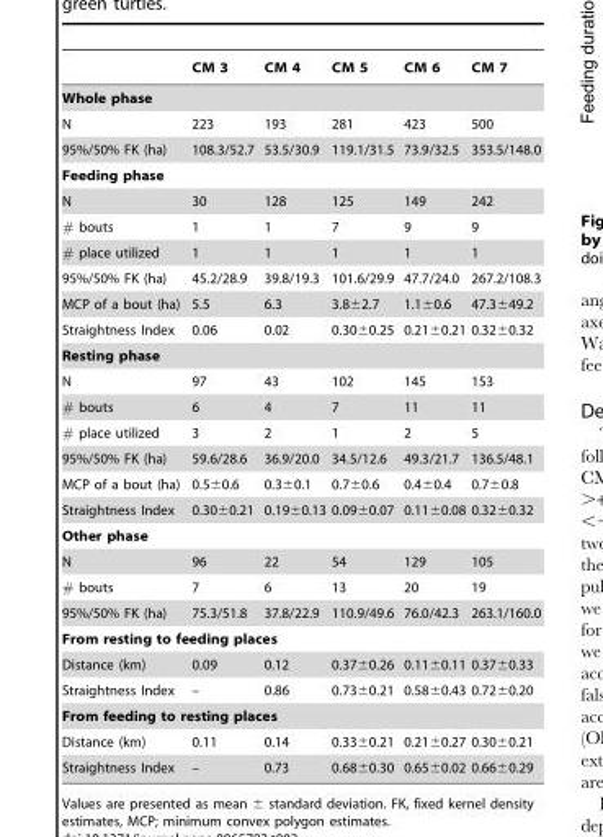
<table><thead><tr><td></td><td>CM 3</td><td>CM 4</td><td>CM 5</td><td>CM 6</td><td>CM 7</td></tr></thead><tbody><tr><td colspan="6">Whole phase</td></tr><tr><td>N</td><td>223</td><td>193</td><td>281</td><td>423</td><td>500</td></tr><tr><td>95%/50% FK (ha)</td><td>108.3/52.7</td><td>53.5/30.9</td><td>119.1/31.5</td><td>73.9/32.5</td><td>353.5/148.0</td></tr><tr><td colspan="6">Feeding phase</td></tr><tr><td>N</td><td>30</td><td>128</td><td>125</td><td>149</td><td>242</td></tr><tr><td># bouts</td><td>1</td><td>1</td><td>7</td><td>9</td><td>9</td></tr><tr><td># place utilized</td><td>1</td><td>1</td><td>1</td><td>1</td><td>1</td></tr><tr><td>95%/50% FK (ha)</td><td>45.2/28.9</td><td>39.8/19.3</td><td>101.6/29.9</td><td>47.7/24.0</td><td>267.2/108.3</td></tr><tr><td>MCP of a bout (ha)</td><td>5.5</td><td>6.3</td><td>3.8±2.7</td><td>1.1±0.6</td><td>47.3±49.2</td></tr><tr><td>Straightness Index</td><td>0.06</td><td>0.02</td><td>0.30±0.25</td><td>0.21±0.21</td><td>0.32±0.32</td></tr><tr><td colspan="6">Resting phase</td></tr><tr><td>N</td><td>97</td><td>43</td><td>102</td><td>145</td><td>153</td></tr><tr><td># bouts</td><td>6</td><td>4</td><td>7</td><td>11</td><td>11</td></tr><tr><td># place utilized</td><td>3</td><td>2</td><td>1</td><td>2</td><td>5</td></tr><tr><td>95%/50% FK (ha)</td><td>59.6/28.6</td><td>36.9/20.0</td><td>34.5/12.6</td><td>49.3/21.7</td><td>136.5/48.1</td></tr><tr><td>MCP of a bout (ha)</td><td>0.5±0.6</td><td>0.3±0.1</td><td>0.7±0.6</td><td>0.4±0.4</td><td>0.7±0.8</td></tr><tr><td>Straightness Index</td><td>0.30±0.21</td><td>0.19±0.13</td><td>0.09±0.07</td><td>0.11±0.08</td><td>0.32±0.32</td></tr><tr><td colspan="6">Other phase</td></tr><tr><td>N</td><td>96</td><td>22</td><td>54</td><td>129</td><td>105</td></tr><tr><td># bouts</td><td>7</td><td>6</td><td>13</td><td>20</td><td>19</td></tr><tr><td>95%/50% FK (ha)</td><td>75.3/51.8</td><td>37.8/22.9</td><td>110.9/49.6</td><td>76.0/42.3</td><td>263.1/160.0</td></tr><tr><td colspan="6">From resting to feeding places</td></tr><tr><td>Distance (km)</td><td>0.09</td><td>0.12</td><td>0.37±0.26</td><td>0.11±0.11</td><td>0.37±0.33</td></tr><tr><td>Straightness Index</td><td>–</td><td>0.86</td><td>0.73±0.21</td><td>0.58±0.43</td><td>0.72±0.20</td></tr><tr><td colspan="6">From feeding to resting places</td></tr><tr><td>Distance (km)</td><td>0.11</td><td>0.14</td><td>0.33±0.21</td><td>0.21±0.27</td><td>0.30±0.21</td></tr><tr><td>Straightness Index</td><td>–</td><td>0.73</td><td>0.68±0.30</td><td>0.65±0.02</td><td>0.66±0.29</td></tr></tbody></table>